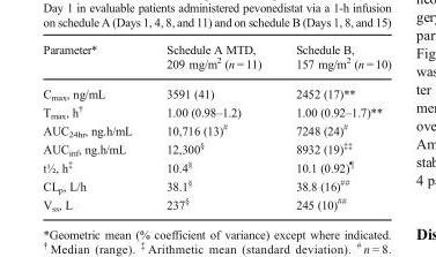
<table><thead><tr><td>Parameter*</td><td>Schedule A MTD, 209 mg/m<sup>2</sup> (n = 11)</td><td>Schedule B, 157 mg/m<sup>2</sup> (n = 10)</td></tr></thead><tbody><tr><td>C<sub>max</sub>, ng/mL</td><td>3591 (41)</td><td>2452 (17)**</td></tr><tr><td>T<sub>max</sub>, h<sup>†</sup></td><td>1.00 (0.98–1.2)</td><td>1.00 (0.92–1.7)**</td></tr><tr><td>AUC<sub>24hr</sub>, ng.h/mL</td><td>10,716 (13)<sup>#</sup></td><td>7248 (24)<sup>#</sup></td></tr><tr><td>AUC<sub>inf</sub>, ng.h/mL</td><td>12,300<sup>§</sup></td><td>8932 (19)<sup>‡‡</sup></td></tr><tr><td>t½, h<sup>‡</sup></td><td>10.4<sup>§</sup></td><td>10.1 (0.92)<sup>¶</sup></td></tr><tr><td>CL<sub>p</sub>, L/h</td><td>38.1<sup>§</sup></td><td>38.8 (16)<sup>##</sup></td></tr><tr><td>V<sub>ss</sub>, L</td><td>237<sup>§</sup></td><td>245 (10)<sup>##</sup></td></tr></tbody></table>